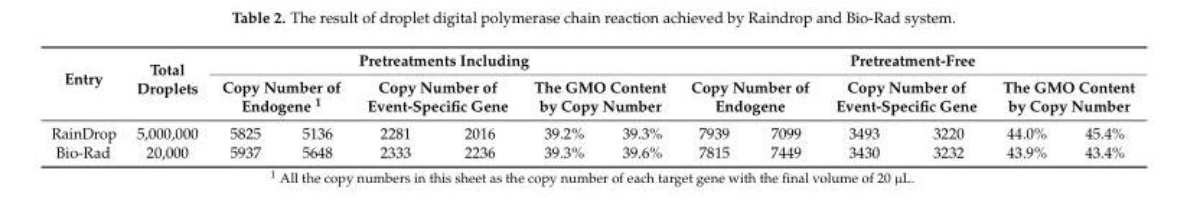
<table><thead><tr><td rowspan="3">Entry RainDrop</td><td rowspan="3">Total Droplets 5,000,000</td><td colspan="6">Pretreatments Including</td><td colspan="6">Pretreatment-Free</td></tr><tr><td colspan="2">Copy Number of Endogene <sup>1</sup></td><td colspan="2">Copy Number of Event-Specific Gene</td><td colspan="2">The GMO Content by Copy Number</td><td colspan="2">Copy Number of Endogene</td><td colspan="2">Copy Number of Event-Specific Gene</td><td colspan="2">The GMO Content by Copy Number</td></tr><tr><td>5825</td><td>5136</td><td>2281</td><td>2016</td><td>39.2%</td><td>39.3%</td><td>7939</td><td>7099</td><td>3493</td><td>3220</td><td>44.0%</td><td>45.4%</td></tr></thead><tbody><tr><td>Bio-Rad</td><td>20,000</td><td>5937</td><td>5648</td><td>2333</td><td>2236</td><td>39.3%</td><td>39.6%</td><td>7815</td><td>7449</td><td>3430</td><td>3232</td><td>43.9%</td><td>43.4%</td></tr></tbody></table>